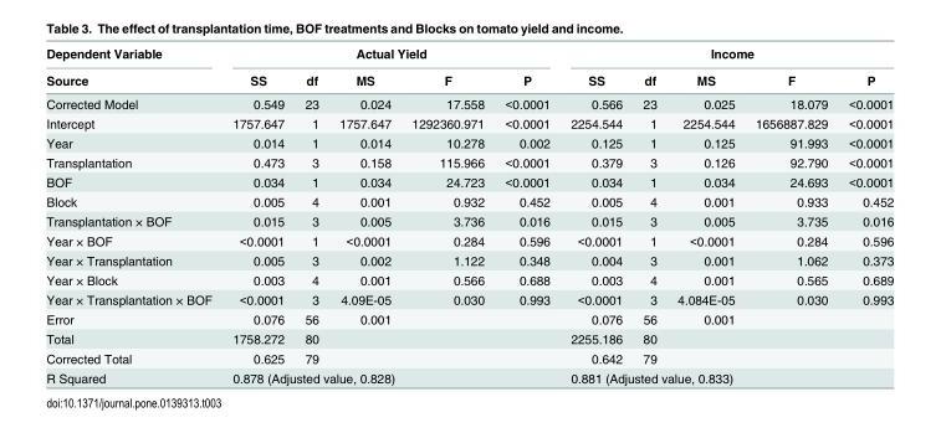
<table><thead><tr><td rowspan="2">Dependent Variable Source</td><td colspan="5">Actual Yield</td><td colspan="5">Income</td></tr><tr><td>SS</td><td>df</td><td>MS</td><td>F</td><td>P</td><td>SS</td><td>df</td><td>MS</td><td>F</td><td>P</td></tr></thead><tbody><tr><td>Corrected Model</td><td>0.549</td><td>23</td><td>0.024</td><td>17.558</td><td>&lt;0.0001</td><td>0.566</td><td>23</td><td>0.025</td><td>18.079</td><td>&lt;0.0001</td></tr><tr><td>Intercept</td><td>1757.647</td><td>1</td><td>1757.647</td><td>1292360.971</td><td>&lt;0.0001</td><td>2254.544</td><td>1</td><td>2254.544</td><td>1656887.829</td><td>&lt;0.0001</td></tr><tr><td>Year</td><td>0.014</td><td>1</td><td>0.014</td><td>10.278</td><td>0.002</td><td>0.125</td><td>1</td><td>0.125</td><td>91.993</td><td>&lt;0.0001</td></tr><tr><td>Transplantation</td><td>0.473</td><td>3</td><td>0.158</td><td>115.966</td><td>&lt;0.0001</td><td>0.379</td><td>3</td><td>0.126</td><td>92.790</td><td>&lt;0.0001</td></tr><tr><td>BOF</td><td>0.034</td><td>1</td><td>0.034</td><td>24.723</td><td>&lt;0.0001</td><td>0.034</td><td>1</td><td>0.034</td><td>24.693</td><td>&lt;0.0001</td></tr><tr><td>Block</td><td>0.005</td><td>4</td><td>0.001</td><td>0.932</td><td>0.452</td><td>0.005</td><td>4</td><td>0.001</td><td>0.933</td><td>0.452</td></tr><tr><td>Transplantation × BOF</td><td>0.015</td><td>3</td><td>0.005</td><td>3.736</td><td>0.016</td><td>0.015</td><td>3</td><td>0.005</td><td>3.735</td><td>0.016</td></tr><tr><td>Year × BOF</td><td>&lt;0.0001</td><td>1</td><td>&lt;0.0001</td><td>0.284</td><td>0.596</td><td>&lt;0.0001</td><td>1</td><td>&lt;0.0001</td><td>0.284</td><td>0.596</td></tr><tr><td>Year × Transplantation</td><td>0.005</td><td>3</td><td>0.002</td><td>1.122</td><td>0.348</td><td>0.004</td><td>3</td><td>0.001</td><td>1.062</td><td>0.373</td></tr><tr><td>Year × Block</td><td>0.003</td><td>4</td><td>0.001</td><td>0.566</td><td>0.688</td><td>0.003</td><td>4</td><td>0.001</td><td>0.565</td><td>0.689</td></tr><tr><td>Year × Transplantation × BOF</td><td>&lt;0.0001</td><td>3</td><td>4.09E-05</td><td>0.030</td><td>0.993</td><td>&lt;0.0001</td><td>3</td><td>4.084E-05</td><td>0.030</td><td>0.993</td></tr><tr><td>Error</td><td>0.076</td><td>56</td><td>0.001</td><td></td><td></td><td>0.076</td><td>56</td><td>0.001</td><td></td><td></td></tr><tr><td>Total</td><td>1758.272</td><td>80</td><td></td><td></td><td></td><td>2255.186</td><td>80</td><td></td><td></td><td></td></tr><tr><td>Corrected Total</td><td>0.625</td><td>79</td><td></td><td></td><td></td><td>0.642</td><td>79</td><td></td><td></td><td></td></tr><tr><td>R Squared</td><td colspan="5">0.878 (Adjusted value, 0.828)</td><td colspan="5">0.881 (Adjusted value, 0.833)</td></tr></tbody></table>